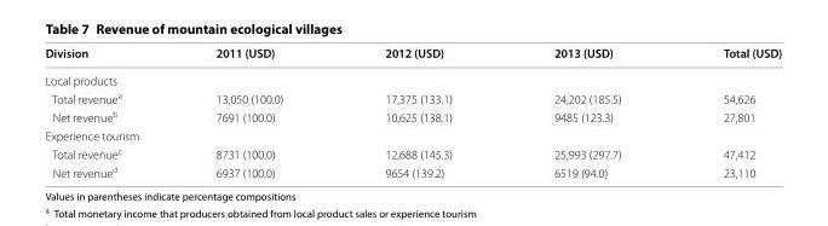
<table><thead><tr><td>Division</td><td>2011 (USD)</td><td>2012 (USD)</td><td>2013 (USD)</td><td>Total (USD)</td></tr></thead><tbody><tr><td colspan="5">Local products</td></tr><tr><td>Total revenue<sup>a</sup></td><td>13,050 (100.0)</td><td>17,375 (133.1)</td><td>24,202 (185.5)</td><td>54,626</td></tr><tr><td>Net revenue<sup>b</sup></td><td>7691 (100.0)</td><td>10,625 (138.1)</td><td>9485 (123.3)</td><td>27,801</td></tr><tr><td colspan="5">Experience tourism</td></tr><tr><td>Total revenue<sup>c</sup></td><td>8731 (100.0)</td><td>12,688 (145.3)</td><td>25,993 (297.7)</td><td>47,412</td></tr><tr><td>Net revenue<sup>d</sup></td><td>6937 (100.0)</td><td>9654 (139.2)</td><td>6519 (94.0)</td><td>23,110</td></tr></tbody></table>